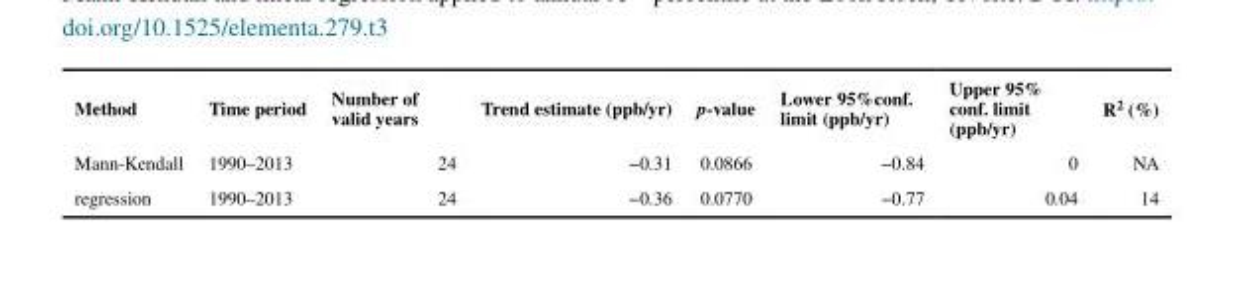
<table><thead><tr><td>Method</td><td>Time period</td><td>Number of valid years</td><td>Trend estimate (ppb/yr)</td><td>p-value</td><td>Lower 95%conf. limit (ppb/yr)</td><td>Upper 95% conf. limit (ppb/yr)</td><td>R<sup>2</sup> (%)</td></tr></thead><tbody><tr><td>Mann-Kendall</td><td>1990–2013</td><td>24</td><td>−0.31</td><td>0.0866</td><td>−0.84</td><td>0</td><td>NA</td></tr><tr><td>regression</td><td>1990–2013</td><td>24</td><td>−0.36</td><td>0.0770</td><td>−0.77</td><td>0.04</td><td>14</td></tr></tbody></table>